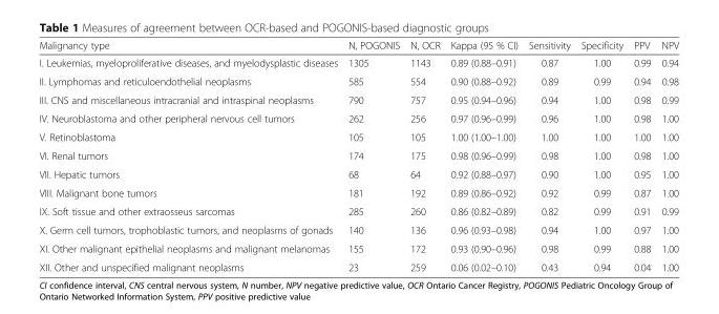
<table><thead><tr><td>Malignancy type</td><td>N, POGONIS</td><td>N, OCR</td><td>Kappa (95 % CI)</td><td>Sensitivity</td><td>Specificity</td><td>PPV</td><td>NPV</td></tr></thead><tbody><tr><td>I. Leukemias, myeloproliferative diseases, and myelodysplastic diseases</td><td>1305</td><td>1143</td><td>0.89 (0.88–0.91)</td><td>0.87</td><td>1.00</td><td>0.99</td><td>0.94</td></tr><tr><td>II. Lymphomas and reticuloendothelial neoplasms</td><td>585</td><td>554</td><td>0.90 (0.88–0.92)</td><td>0.89</td><td>0.99</td><td>0.94</td><td>0.98</td></tr><tr><td>III. CNS and miscellaneous intracranial and intraspinal neoplasms</td><td>790</td><td>757</td><td>0.95 (0.94–0.96)</td><td>0.94</td><td>1.00</td><td>0.98</td><td>0.99</td></tr><tr><td>IV. Neuroblastoma and other peripheral nervous cell tumors</td><td>262</td><td>256</td><td>0.97 (0.96–0.99)</td><td>0.96</td><td>1.00</td><td>0.98</td><td>1.00</td></tr><tr><td>V. Retinoblastoma</td><td>105</td><td>105</td><td>1.00 (1.00–1.00)</td><td>1.00</td><td>1.00</td><td>1.00</td><td>1.00</td></tr><tr><td>VI. Renal tumors</td><td>174</td><td>175</td><td>0.98 (0.96–0.99)</td><td>0.98</td><td>1.00</td><td>0.98</td><td>1.00</td></tr><tr><td>VII. Hepatic tumors</td><td>68</td><td>64</td><td>0.92 (0.88–0.97)</td><td>0.90</td><td>1.00</td><td>0.95</td><td>1.00</td></tr><tr><td>VIII. Malignant bone tumors</td><td>181</td><td>192</td><td>0.89 (0.86–0.92)</td><td>0.92</td><td>0.99</td><td>0.87</td><td>1.00</td></tr><tr><td>IX. Soft tissue and other extraosseus sarcomas</td><td>285</td><td>260</td><td>0.86 (0.82–0.89)</td><td>0.82</td><td>0.99</td><td>0.91</td><td>0.99</td></tr><tr><td>X. Germ cell tumors, trophoblastic tumors, and neoplasms of gonads</td><td>140</td><td>136</td><td>0.96 (0.93–0.98)</td><td>0.94</td><td>1.00</td><td>0.97</td><td>1.00</td></tr><tr><td>XI. Other malignant epithelial neoplasms and malignant melanomas</td><td>155</td><td>172</td><td>0.93 (0.90–0.96)</td><td>0.98</td><td>0.99</td><td>0.88</td><td>1.00</td></tr><tr><td>XII. Other and unspecified malignant neoplasms</td><td>23</td><td>259</td><td>0.06 (0.02–0.10)</td><td>0.43</td><td>0.94</td><td>0.04</td><td>1.00</td></tr></tbody></table>